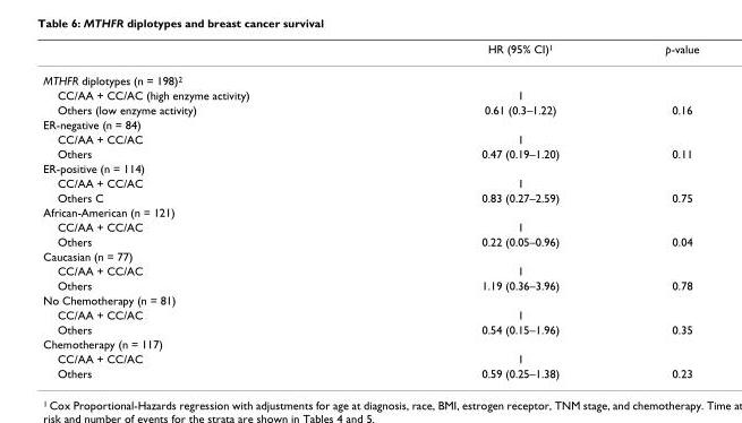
<table><thead><tr><td></td><td>HR (95% CI)1</td><td>p-value</td></tr></thead><tbody><tr><td colspan="3">MTHFR diplotypes (n = 198)2</td></tr><tr><td>CC/AA + CC/AC (high enzyme activity)</td><td>1</td><td></td></tr><tr><td>Others (low enzyme activity)</td><td>0.61 (0.3–1.22)</td><td>0.16</td></tr><tr><td colspan="3">ER-negative (n = 84)</td></tr><tr><td>CC/AA + CC/AC</td><td>1</td><td></td></tr><tr><td>Others</td><td>0.47 (0.19–1.20)</td><td>0.11</td></tr><tr><td colspan="3">ER-positive (n = 114)</td></tr><tr><td>CC/AA + CC/AC</td><td>1</td><td></td></tr><tr><td>Others C</td><td>0.83 (0.27–2.59)</td><td>0.75</td></tr><tr><td colspan="3">African-American (n = 121)</td></tr><tr><td>CC/AA + CC/AC</td><td>1</td><td></td></tr><tr><td>Others</td><td>0.22 (0.05–0.96)</td><td>0.04</td></tr><tr><td colspan="3">Caucasian (n = 77)</td></tr><tr><td>CC/AA + CC/AC</td><td>1</td><td></td></tr><tr><td>Others</td><td>1.19 (0.36–3.96)</td><td>0.78</td></tr><tr><td colspan="3">No Chemotherapy (n = 81)</td></tr><tr><td>CC/AA + CC/AC</td><td>1</td><td></td></tr><tr><td>Others</td><td>0.54 (0.15–1.96)</td><td>0.35</td></tr><tr><td colspan="3">Chemotherapy (n = 117)</td></tr><tr><td>CC/AA + CC/AC</td><td>1</td><td></td></tr><tr><td>Others</td><td>0.59 (0.25–1.38)</td><td>0.23</td></tr></tbody></table>